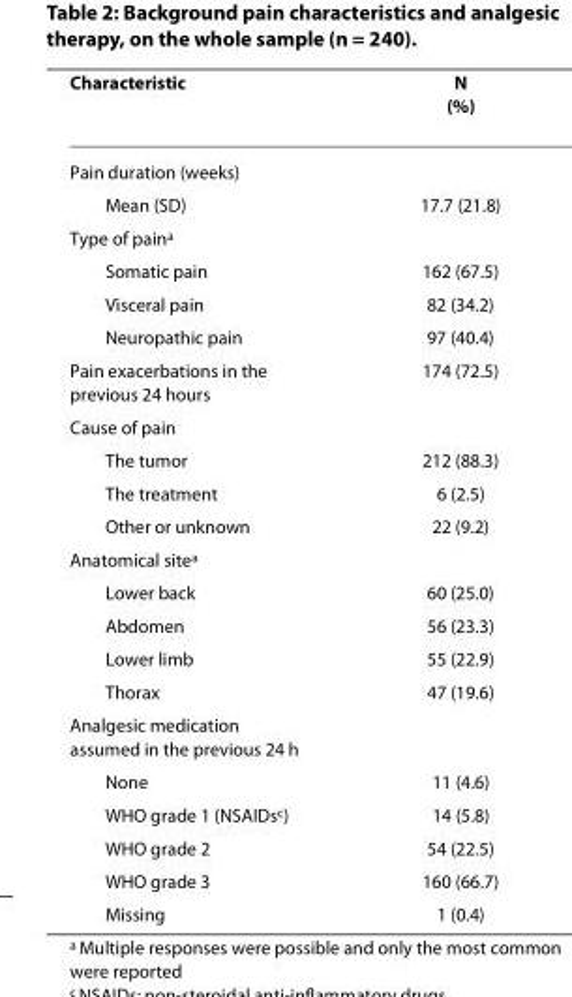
<table><thead><tr><td>Characteristic</td><td>N (%)</td></tr></thead><tbody><tr><td colspan="2">Pain duration (weeks)</td></tr><tr><td>Mean (SD)</td><td>17.7 (21.8)</td></tr><tr><td colspan="2">Type of pain<sup>a</sup></td></tr><tr><td>Somatic pain</td><td>162 (67.5)</td></tr><tr><td>Visceral pain</td><td>82 (34.2)</td></tr><tr><td>Neuropathic pain</td><td>97 (40.4)</td></tr><tr><td>Pain exacerbations in the previous 24 hours</td><td>174 (72.5)</td></tr><tr><td colspan="2">Cause of pain</td></tr><tr><td>The tumor</td><td>212 (88.3)</td></tr><tr><td>The treatment</td><td>6 (2.5)</td></tr><tr><td>Other or unknown</td><td>22 (9.2)</td></tr><tr><td colspan="2">Anatomical site<sup>a</sup></td></tr><tr><td>Lower back</td><td>60 (25.0)</td></tr><tr><td>Abdomen</td><td>56 (23.3)</td></tr><tr><td>Lower limb</td><td>55 (22.9)</td></tr><tr><td>Thorax</td><td>47 (19.6)</td></tr><tr><td colspan="2">Analgesic medication assumed in the previous 24 h</td></tr><tr><td>None</td><td>11 (4.6)</td></tr><tr><td>WHO grade 1 (NSAIDs<sup>c</sup>)</td><td>14 (5.8)</td></tr><tr><td>WHO grade 2</td><td>54 (22.5)</td></tr><tr><td>WHO grade 3</td><td>160 (66.7)</td></tr><tr><td>Missing</td><td>1 (0.4)</td></tr></tbody></table>